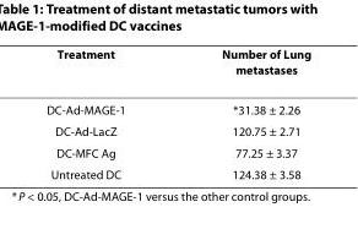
<table><thead><tr><td>Treatment</td><td>Number of Lung metastases</td></tr></thead><tbody><tr><td>DC-Ad-MAGE-1</td><td>*31.38 ± 2.26</td></tr><tr><td>DC-Ad-LacZ</td><td>120.75 ± 2.71</td></tr><tr><td>DC-MFC Ag</td><td>77.25 ± 3.37</td></tr><tr><td>Untreated DC</td><td>124.38 ± 3.58</td></tr></tbody></table>